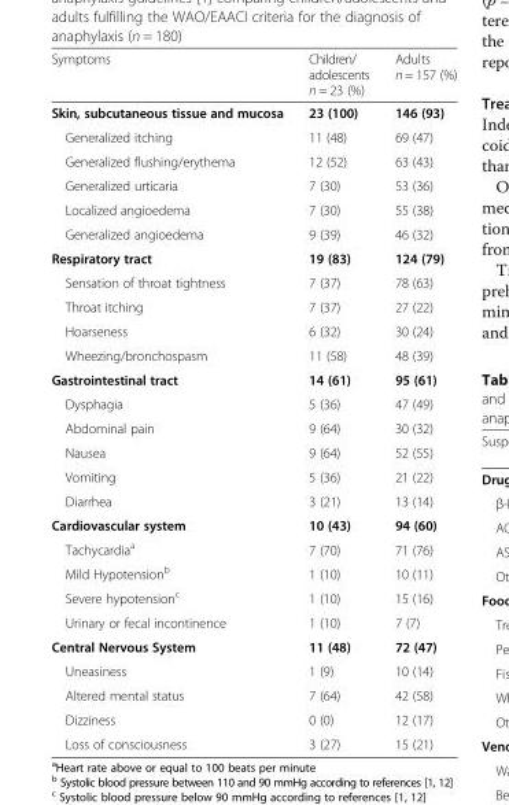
<table><thead><tr><td>Symptoms</td><td>Children/ adolescents n = 23 (%)</td><td>Adults n = 157 (%)</td></tr></thead><tbody><tr><td>Skin, subcutaneous tissue and mucosa</td><td>23 (100)</td><td>146 (93)</td></tr><tr><td>Generalized itching</td><td>11 (48)</td><td>69 (47)</td></tr><tr><td>Generalized flushing/erythema</td><td>12 (52)</td><td>63 (43)</td></tr><tr><td>Generalized urticaria</td><td>7 (30)</td><td>53 (36)</td></tr><tr><td>Localized angioedema</td><td>7 (30)</td><td>55 (38)</td></tr><tr><td>Generalized angioedema</td><td>9 (39)</td><td>46 (32)</td></tr><tr><td>Respiratory tract</td><td>19 (83)</td><td>124 (79)</td></tr><tr><td>Sensation of throat tightness</td><td>7 (37)</td><td>78 (63)</td></tr><tr><td>Throat itching</td><td>7 (37)</td><td>27 (22)</td></tr><tr><td>Hoarseness</td><td>6 (32)</td><td>30 (24)</td></tr><tr><td>Wheezing/bronchospasm</td><td>11 (58)</td><td>48 (39)</td></tr><tr><td>Gastrointestinal tract</td><td>14 (61)</td><td>95 (61)</td></tr><tr><td>Dysphagia</td><td>5 (36)</td><td>47 (49)</td></tr><tr><td>Abdominal pain</td><td>9 (64)</td><td>30 (32)</td></tr><tr><td>Nausea</td><td>9 (64)</td><td>52 (55)</td></tr><tr><td>Vomiting</td><td>5 (36)</td><td>21 (22)</td></tr><tr><td>Diarrhea</td><td>3 (21)</td><td>13 (14)</td></tr><tr><td>Cardiovascular system</td><td>10 (43)</td><td>94 (60)</td></tr><tr><td>Tachycardia<sup>a</sup></td><td>7 (70)</td><td>71 (76)</td></tr><tr><td>Mild Hypotension<sup>b</sup></td><td>1 (10)</td><td>10 (11)</td></tr><tr><td>Severe hypotension<sup>c</sup></td><td>1 (10)</td><td>15 (16)</td></tr><tr><td>Urinary or fecal incontinence</td><td>1 (10)</td><td>7 (7)</td></tr><tr><td>Central Nervous System</td><td>11 (48)</td><td>72 (47)</td></tr><tr><td>Uneasiness</td><td>1 (9)</td><td>10 (14)</td></tr><tr><td>Altered mental status</td><td>7 (64)</td><td>42 (58)</td></tr><tr><td>Dizziness</td><td>0 (0)</td><td>12 (17)</td></tr><tr><td>Loss of consciousness</td><td>3 (27)</td><td>15 (21)</td></tr></tbody></table>